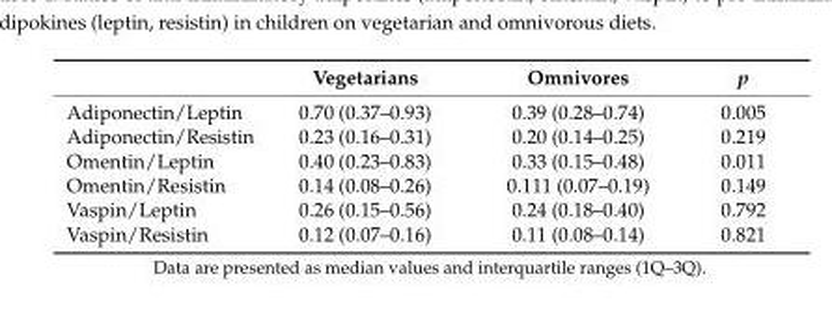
<table><thead><tr><td></td><td>Vegetarians</td><td>Omnivores</td><td>p</td></tr></thead><tbody><tr><td>Adiponectin/Leptin</td><td>0.70 (0.37–0.93)</td><td>0.39 (0.28–0.74)</td><td>0.005</td></tr><tr><td>Adiponectin/Resistin</td><td>0.23 (0.16–0.31)</td><td>0.20 (0.14–0.25)</td><td>0.219</td></tr><tr><td>Omentin/Leptin</td><td>0.40 (0.23–0.83)</td><td>0.33 (0.15–0.48)</td><td>0.011</td></tr><tr><td>Omentin/Resistin</td><td>0.14 (0.08–0.26)</td><td>0.111 (0.07–0.19)</td><td>0.149</td></tr><tr><td>Vaspin/Leptin</td><td>0.26 (0.15–0.56)</td><td>0.24 (0.18–0.40)</td><td>0.792</td></tr><tr><td>Vaspin/Resistin</td><td>0.12 (0.07–0.16)</td><td>0.11 (0.08–0.14)</td><td>0.821</td></tr></tbody></table>